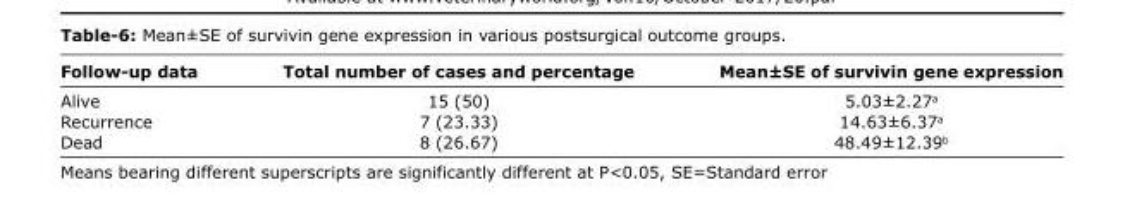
<table><thead><tr><td>Follow-up data</td><td>Total number of cases and percentage</td><td>Mean±SE of survivin gene expression</td></tr></thead><tbody><tr><td>Alive</td><td>15 (50)</td><td>5.03±2.27<sup>a</sup></td></tr><tr><td>Recurrence</td><td>7 (23.33)</td><td>14.63±6.37<sup>a</sup></td></tr><tr><td>Dead</td><td>8 (26.67)</td><td>48.49±12.39<sup>b</sup></td></tr></tbody></table>